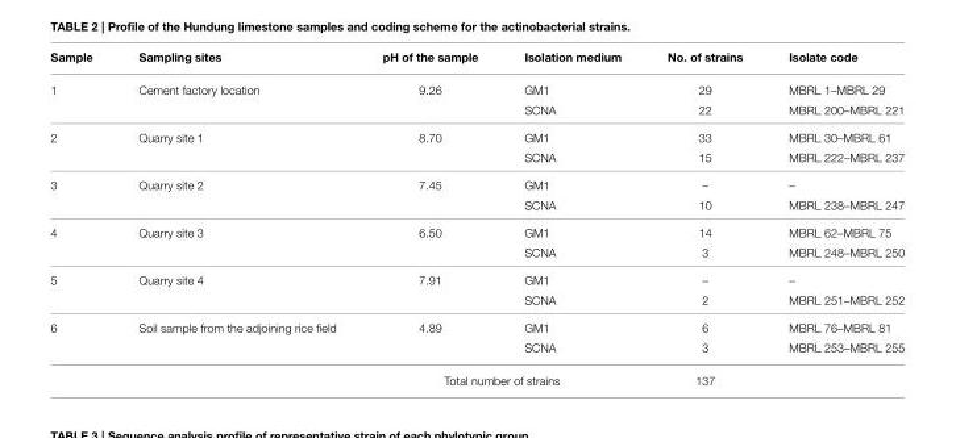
<table><thead><tr><td>Sample</td><td>Sampling sites</td><td>pH of the sample</td><td>Isolation medium</td><td>No. of strains</td><td>Isolate code</td></tr></thead><tbody><tr><td rowspan="2">1</td><td>Cement factory location</td><td>9.26</td><td>GM1</td><td>29</td><td>MBRL 1–MBRL 29</td></tr><tr><td></td><td></td><td>SCNA</td><td>22</td><td>MBRL 200–MBRL 221</td></tr><tr><td rowspan="2">2</td><td>Quarry site 1</td><td>8.70</td><td>GM1</td><td>33</td><td>MBRL 30–MBRL 61</td></tr><tr><td></td><td></td><td>SCNA</td><td>15</td><td>MBRL 222–MBRL 237</td></tr><tr><td rowspan="2">3</td><td>Quarry site 2</td><td>7.45</td><td>GM1</td><td>–</td><td>–</td></tr><tr><td></td><td></td><td>SCNA</td><td>10</td><td>MBRL 238–MBRL 247</td></tr><tr><td rowspan="2">4</td><td>Quarry site 3</td><td>6.50</td><td>GM1</td><td>14</td><td>MBRL 62–MBRL 75</td></tr><tr><td></td><td></td><td>SCNA</td><td>3</td><td>MBRL 248–MBRL 250</td></tr><tr><td rowspan="2">5</td><td>Quarry site 4</td><td>7.91</td><td>GM1</td><td>–</td><td>–</td></tr><tr><td></td><td></td><td>SCNA</td><td>2</td><td>MBRL 251–MBRL 252</td></tr><tr><td rowspan="3">6</td><td>Soil sample from the adjoining rice field</td><td>4.89</td><td>GM1</td><td>6</td><td>MBRL 76–MBRL 81</td></tr><tr><td></td><td></td><td>SCNA</td><td>3</td><td>MBRL 253–MBRL 255</td></tr><tr><td></td><td colspan="2">Total number of strains</td><td>137</td><td></td></tr></tbody></table>